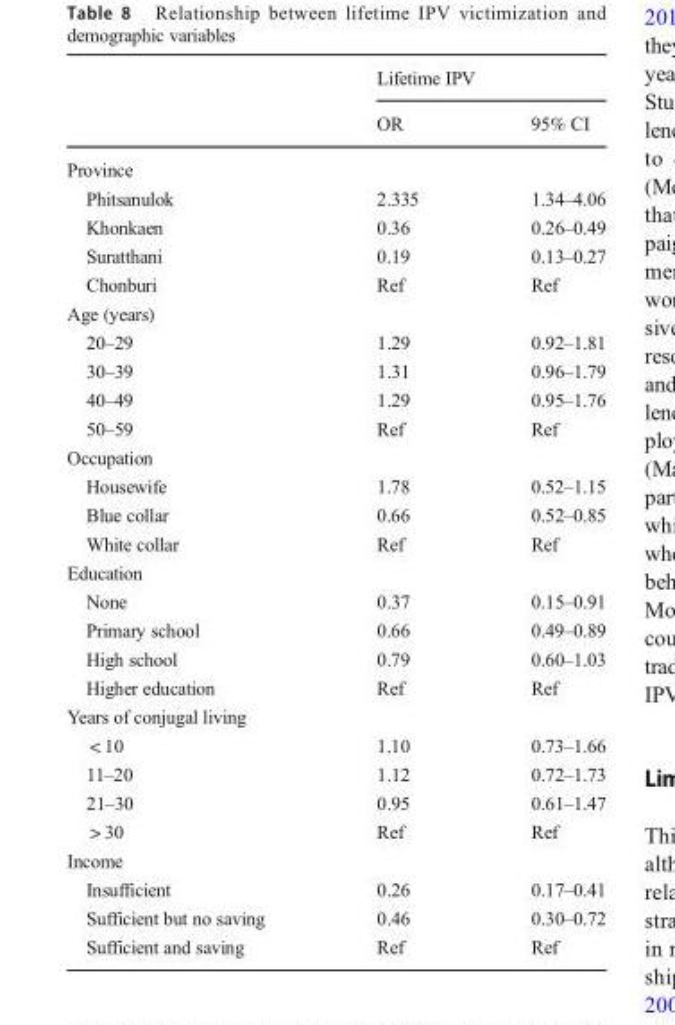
<table><thead><tr><td rowspan="2"></td><td colspan="2">Lifetime IPV</td></tr><tr><td>OR</td><td>95% CI</td></tr></thead><tbody><tr><td colspan="3">Province</td></tr><tr><td>Phitsanulok</td><td>2.335</td><td>1.34–4.06</td></tr><tr><td>Khonkaen</td><td>0.36</td><td>0.26–0.49</td></tr><tr><td>Suratthani</td><td>0.19</td><td>0.13–0.27</td></tr><tr><td>Chonburi</td><td>Ref</td><td>Ref</td></tr><tr><td colspan="3">Age (years)</td></tr><tr><td>20–29</td><td>1.29</td><td>0.92–1.81</td></tr><tr><td>30–39</td><td>1.31</td><td>0.96–1.79</td></tr><tr><td>40–49</td><td>1.29</td><td>0.95–1.76</td></tr><tr><td>50–59</td><td>Ref</td><td>Ref</td></tr><tr><td colspan="3">Occupation</td></tr><tr><td>Housewife</td><td>1.78</td><td>0.52–1.15</td></tr><tr><td>Blue collar</td><td>0.66</td><td>0.52–0.85</td></tr><tr><td>White collar</td><td>Ref</td><td>Ref</td></tr><tr><td colspan="3">Education</td></tr><tr><td>None</td><td>0.37</td><td>0.15–0.91</td></tr><tr><td>Primary school</td><td>0.66</td><td>0.49–0.89</td></tr><tr><td>High school</td><td>0.79</td><td>0.60–1.03</td></tr><tr><td>Higher education</td><td>Ref</td><td>Ref</td></tr><tr><td colspan="3">Years of conjugal living</td></tr><tr><td>&lt; 10</td><td>1.10</td><td>0.73–1.66</td></tr><tr><td>11–20</td><td>1.12</td><td>0.72–1.73</td></tr><tr><td>21–30</td><td>0.95</td><td>0.61–1.47</td></tr><tr><td>&gt; 30</td><td>Ref</td><td>Ref</td></tr><tr><td colspan="3">Income</td></tr><tr><td>Insufficient</td><td>0.26</td><td>0.17–0.41</td></tr><tr><td>Sufficient but no saving</td><td>0.46</td><td>0.30–0.72</td></tr><tr><td>Sufficient and saving</td><td>Ref</td><td>Ref</td></tr></tbody></table>